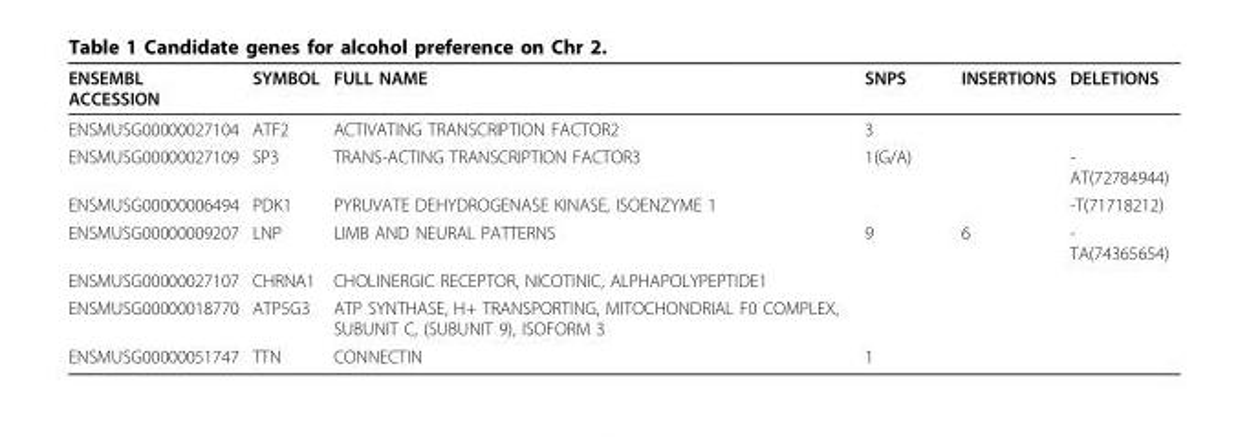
<table><thead><tr><td>ENSEMBL ACCESSION</td><td>SYMBOL</td><td>FULL NAME</td><td>SNPS</td><td>INSERTIONS</td><td>DELETIONS</td></tr></thead><tbody><tr><td>ENSMUSG00000027104</td><td>ATF2</td><td>ACTIVATING TRANSCRIPTION FACTOR2</td><td>3</td><td></td><td></td></tr><tr><td>ENSMUSG00000027109</td><td>SP3</td><td>TRANS-ACTING TRANSCRIPTION FACTOR3</td><td>1(G/A)</td><td></td><td>- AT(72784944)</td></tr><tr><td>ENSMUSG00000006494</td><td>PDK1</td><td>PYRUVATE DEHYDROGENASE KINASE, ISOENZYME 1</td><td></td><td></td><td>-T(71718212)</td></tr><tr><td>ENSMUSG00000009207</td><td>LNP</td><td>LIMB AND NEURAL PATTERNS</td><td>9</td><td>6</td><td>- TA(74365654)</td></tr><tr><td>ENSMUSG00000027107</td><td>CHRNA1</td><td>CHOLINERGIC RECEPTOR, NICOTINIC, ALPHAPOLYPEPTIDE1</td><td></td><td></td><td></td></tr><tr><td>ENSMUSG00000018770</td><td>ATP5G3</td><td>ATP SYNTHASE, H+ TRANSPORTING, MITOCHONDRIAL F0 COMPLEX, SUBUNIT C, (SUBUNIT 9), ISOFORM 3</td><td></td><td></td><td></td></tr><tr><td>ENSMUSG00000051747</td><td>TTN</td><td>CONNECTIN</td><td>1</td><td></td><td></td></tr></tbody></table>